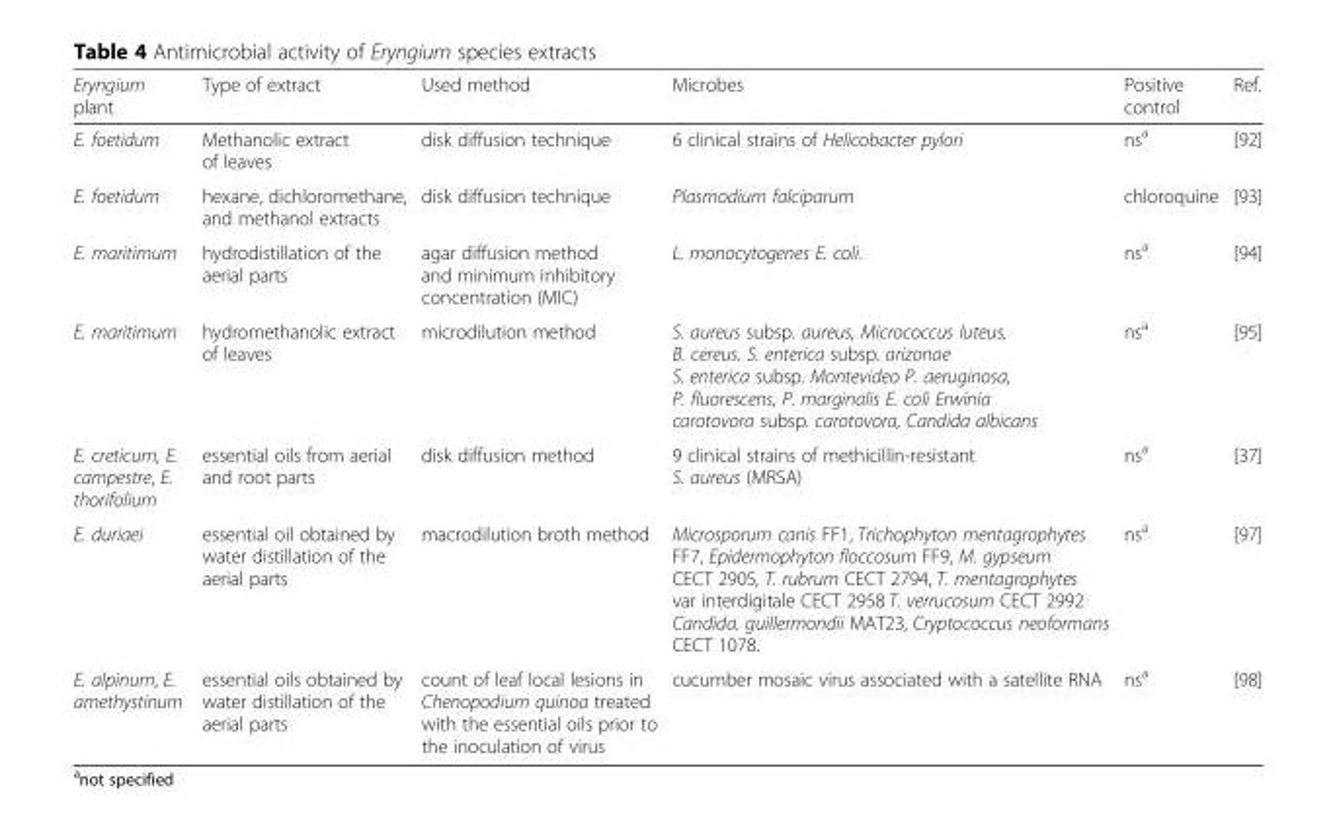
<table><thead><tr><td>Eryngium plant</td><td>Type of extract</td><td>Used method</td><td>Microbes</td><td>Positive control</td><td>Ref.</td></tr></thead><tbody><tr><td>E. foetidum</td><td>Methanolic extract of leaves</td><td>disk diffusion technique</td><td>6 clinical strains of Helicobacter pylori</td><td>ns<sup>a</sup></td><td>[92]</td></tr><tr><td>E. foetidum</td><td>hexane, dichloromethane, and methanol extracts</td><td>disk diffusion technique</td><td>Plasmodium falciparum</td><td>chloroquine</td><td>[93]</td></tr><tr><td>E. maritimum</td><td>hydrodistillation of the aerial parts</td><td>agar diffusion method and minimum inhibitory concentration (MIC)</td><td>L. monocytogenes E. coli.</td><td>ns<sup>a</sup></td><td>[94]</td></tr><tr><td>E. maritimum</td><td>hydromethanolic extract of leaves</td><td>microdilution method</td><td>S. aureus subsp. aureus, Micrococcus luteus, B. cereus. S. enterica subsp. arizonae S. enterica subsp. Montevideo P. aeruginosa, P. fluorescens, P. marginalis E. coli Erwinia carotovora subsp. carotovora, Candida albicans</td><td>ns<sup>a</sup></td><td>[95]</td></tr><tr><td>E. creticum, E. campestre, E. thorifolium</td><td>essential oils from aerial and root parts</td><td>disk diffusion method</td><td>9 clinical strains of methicillin-resistant S. aureus (MRSA)</td><td>ns<sup>a</sup></td><td>[37]</td></tr><tr><td>E. duriaei</td><td>essential oil obtained by water distillation of the aerial parts</td><td>macrodilution broth method</td><td>Microsporum canis FF1, Trichophyton mentagrophytes FF7, Epidermophyton floccosum FF9, M. gypseum CECT 2905, T. rubrum CECT 2794, T. mentagrophytes var interdigitale CECT 2958 T. verrucosum CECT 2992 Candida. guillermondii MAT23, Cryptococcus neoformans CECT 1078.</td><td>ns<sup>a</sup></td><td>[97]</td></tr><tr><td>E. alpinum, E. amethystinum</td><td>essential oils obtained by water distillation of the aerial parts</td><td>count of leaf local lesions in Chenopodium quinoa treated with the essential oils prior to the inoculation of virus</td><td>cucumber mosaic virus associated with a satellite RNA</td><td>ns<sup>a</sup></td><td>[98]</td></tr></tbody></table>